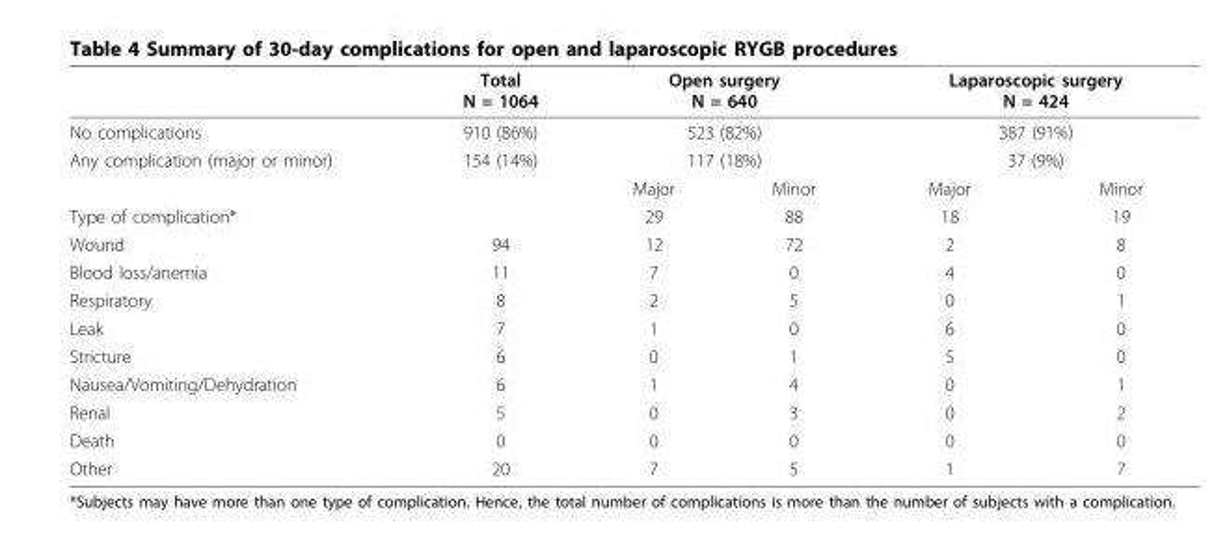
<table><thead><tr><td rowspan="4">No complications Any complication (major or minor)</td><td rowspan="4">Total N = 1064 910 (86%) 154 (14%)</td><td rowspan="3" colspan="2">Open surgery N = 640 523 (82%) 117 (18%)</td><td rowspan="3" colspan="2">Laparoscopic surgery N = 424 387 (91%) 37 (9%)</td></tr><tr></tr><tr></tr><tr><td>Major</td><td>Minor</td><td>Major</td><td>Minor</td></tr></thead><tbody><tr><td>Type of complication*</td><td></td><td>29</td><td>88</td><td>18</td><td>19</td></tr><tr><td>Wound</td><td>94</td><td>12</td><td>72</td><td>2</td><td>8</td></tr><tr><td>Blood loss/anemia</td><td>11</td><td>7</td><td>0</td><td>4</td><td>0</td></tr><tr><td>Respiratory</td><td>8</td><td>2</td><td>5</td><td>0</td><td>1</td></tr><tr><td>Leak</td><td>7</td><td>1</td><td>0</td><td>6</td><td>0</td></tr><tr><td>Stricture</td><td>6</td><td>0</td><td>1</td><td>5</td><td>0</td></tr><tr><td>Nausea/Vomiting/Dehydration</td><td>6</td><td>1</td><td>4</td><td>0</td><td>1</td></tr><tr><td>Renal</td><td>5</td><td>0</td><td>3</td><td>0</td><td>2</td></tr><tr><td>Death</td><td>0</td><td>0</td><td>0</td><td>0</td><td>0</td></tr><tr><td>Other</td><td>20</td><td>7</td><td>5</td><td>1</td><td>7</td></tr></tbody></table>